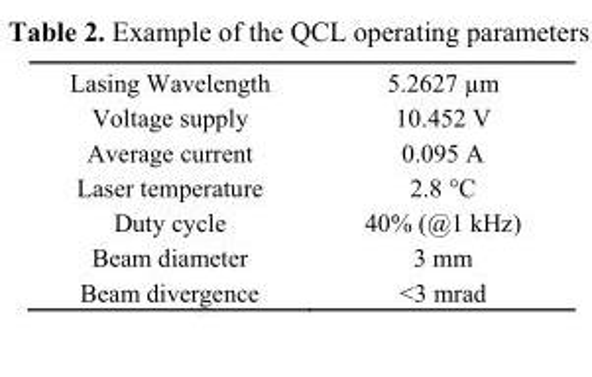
<table><tbody><tr><td>Lasing Wavelength</td><td>5.2627 µm</td></tr><tr><td>Voltage supply</td><td>10.452 V</td></tr><tr><td>Average current</td><td>0.095 A</td></tr><tr><td>Laser temperature</td><td>2.8 °C</td></tr><tr><td>Duty cycle</td><td>40% (@1 kHz)</td></tr><tr><td>Beam diameter</td><td>3 mm</td></tr><tr><td>Beam divergence</td><td>&lt;3 mrad</td></tr></tbody></table>